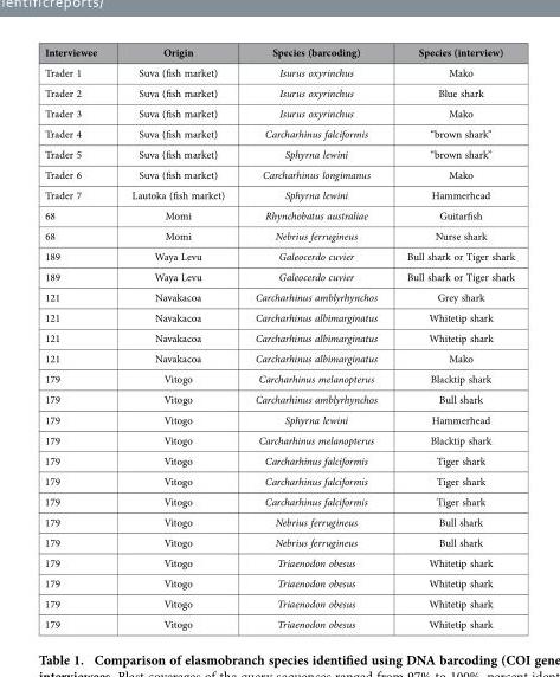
<table><thead><tr><td>Interviewee</td><td>Origin</td><td>Species (barcoding)</td><td>Species (interview)</td></tr></thead><tbody><tr><td>Trader 1</td><td>Suva (fish market)</td><td>Isurus oxyrinchus</td><td>Mako</td></tr><tr><td>Trader 2</td><td>Suva (fish market)</td><td>Isurus oxyrinchus</td><td>Blue shark</td></tr><tr><td>Trader 3</td><td>Suva (fish market)</td><td>Isurus oxyrinchus</td><td>Mako</td></tr><tr><td>Trader 4</td><td>Suva (fish market)</td><td>Carcharhinus falciformis</td><td>“brown shark”</td></tr><tr><td>Trader 5</td><td>Suva (fish market)</td><td>Sphyrna lewini</td><td>“brown shark”</td></tr><tr><td>Trader 6</td><td>Suva (fish market)</td><td>Carcharhinus longimanus</td><td>Mako</td></tr><tr><td>Trader 7</td><td>Lautoka (fish market)</td><td>Sphyrna lewini</td><td>Hammerhead</td></tr><tr><td>68</td><td>Momi</td><td>Rhynchobatus australiae</td><td>Guitarfish</td></tr><tr><td>68</td><td>Momi</td><td>Nebrius ferrugineus</td><td>Nurse shark</td></tr><tr><td>189</td><td>Waya Levu</td><td>Galeocerdo cuvier</td><td>Bull shark or Tiger shark</td></tr><tr><td>189</td><td>Waya Levu</td><td>Galeocerdo cuvier</td><td>Bull shark or Tiger shark</td></tr><tr><td>121</td><td>Navakacoa</td><td>Carcharhinus amblyrhynchos</td><td>Grey shark</td></tr><tr><td>121</td><td>Navakacoa</td><td>Carcharhinus albimarginatus</td><td>Whitetip shark</td></tr><tr><td>121</td><td>Navakacoa</td><td>Carcharhinus albimarginatus</td><td>Whitetip shark</td></tr><tr><td>121</td><td>Navakacoa</td><td>Carcharhinus albimarginatus</td><td>Mako</td></tr><tr><td>179</td><td>Vitogo</td><td>Carcharhinus melanopterus</td><td>Blacktip shark</td></tr><tr><td>179</td><td>Vitogo</td><td>Carcharhinus amblyrhynchos</td><td>Bull shark</td></tr><tr><td>179</td><td>Vitogo</td><td>Sphyrna lewini</td><td>Hammerhead</td></tr><tr><td>179</td><td>Vitogo</td><td>Carcharhinus melanopterus</td><td>Blacktip shark</td></tr><tr><td>179</td><td>Vitogo</td><td>Carcharhinus falciformis</td><td>Tiger shark</td></tr><tr><td>179</td><td>Vitogo</td><td>Carcharhinus falciformis</td><td>Tiger shark</td></tr><tr><td>179</td><td>Vitogo</td><td>Carcharhinus falciformis</td><td>Tiger shark</td></tr><tr><td>179</td><td>Vitogo</td><td>Nebrius ferrugineus</td><td>Bull shark</td></tr><tr><td>179</td><td>Vitogo</td><td>Nebrius ferrugineus</td><td>Bull shark</td></tr><tr><td>179</td><td>Vitogo</td><td>Triaenodon obesus</td><td>Whitetip shark</td></tr><tr><td>179</td><td>Vitogo</td><td>Triaenodon obesus</td><td>Whitetip shark</td></tr><tr><td>179</td><td>Vitogo</td><td>Triaenodon obesus</td><td>Whitetip shark</td></tr><tr><td>179</td><td>Vitogo</td><td>Triaenodon obesus</td><td>Whitetip shark</td></tr></tbody></table>